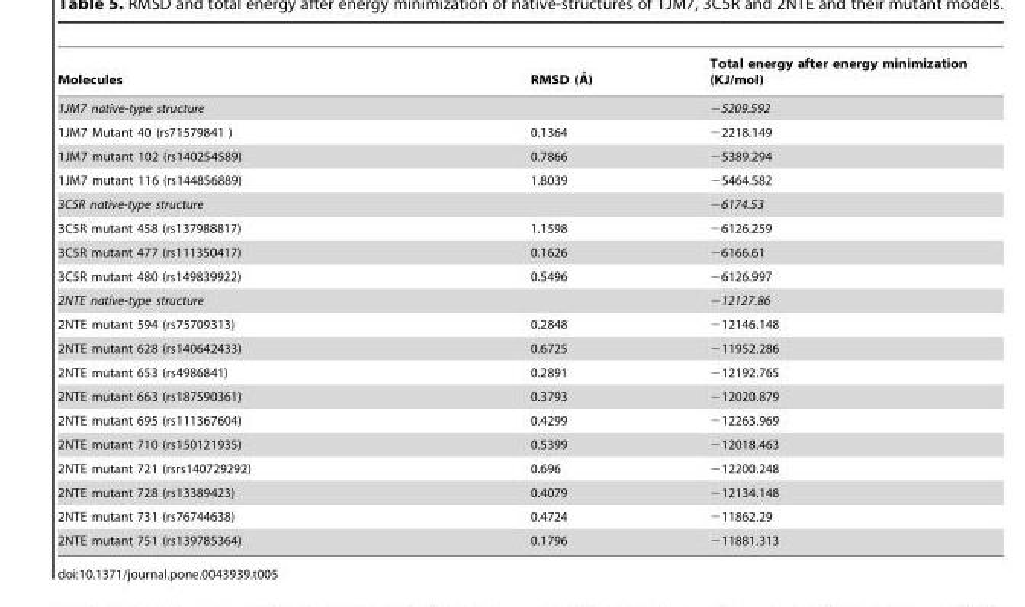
<table><thead><tr><td>Molecules</td><td>RMSD (A˚)</td><td>Total energy after energy minimization (KJ/mol)</td></tr></thead><tbody><tr><td>1JM7 native-type structure</td><td></td><td>−5209.592</td></tr><tr><td>1JM7 Mutant 40 (rs71579841 )</td><td>0.1364</td><td>−2218.149</td></tr><tr><td>1JM7 mutant 102 (rs140254589)</td><td>0.7866</td><td>−5389.294</td></tr><tr><td>1JM7 mutant 116 (rs144856889)</td><td>1.8039</td><td>−5464.582</td></tr><tr><td>3C5R native-type structure</td><td></td><td>−6174.53</td></tr><tr><td>3C5R mutant 458 (rs137988817)</td><td>1.1598</td><td>−6126.259</td></tr><tr><td>3C5R mutant 477 (rs111350417)</td><td>0.1626</td><td>−6166.61</td></tr><tr><td>3C5R mutant 480 (rs149839922)</td><td>0.5496</td><td>−6126.997</td></tr><tr><td>2NTE native-type structure</td><td></td><td>−12127.86</td></tr><tr><td>2NTE mutant 594 (rs75709313)</td><td>0.2848</td><td>−12146.148</td></tr><tr><td>2NTE mutant 628 (rs140642433)</td><td>0.6725</td><td>−11952.286</td></tr><tr><td>2NTE mutant 653 (rs4986841)</td><td>0.2891</td><td>−12192.765</td></tr><tr><td>2NTE mutant 663 (rs187590361)</td><td>0.3793</td><td>−12020.879</td></tr><tr><td>2NTE mutant 695 (rs111367604)</td><td>0.4299</td><td>−12263.969</td></tr><tr><td>2NTE mutant 710 (rs150121935)</td><td>0.5399</td><td>−12018.463</td></tr><tr><td>2NTE mutant 721 (rsrs140729292)</td><td>0.696</td><td>−12200.248</td></tr><tr><td>2NTE mutant 728 (rs13389423)</td><td>0.4079</td><td>−12134.148</td></tr><tr><td>2NTE mutant 731 (rs76744638)</td><td>0.4724</td><td>−11862.29</td></tr><tr><td>2NTE mutant 751 (rs139785364)</td><td>0.1796</td><td>−11881.313</td></tr></tbody></table>